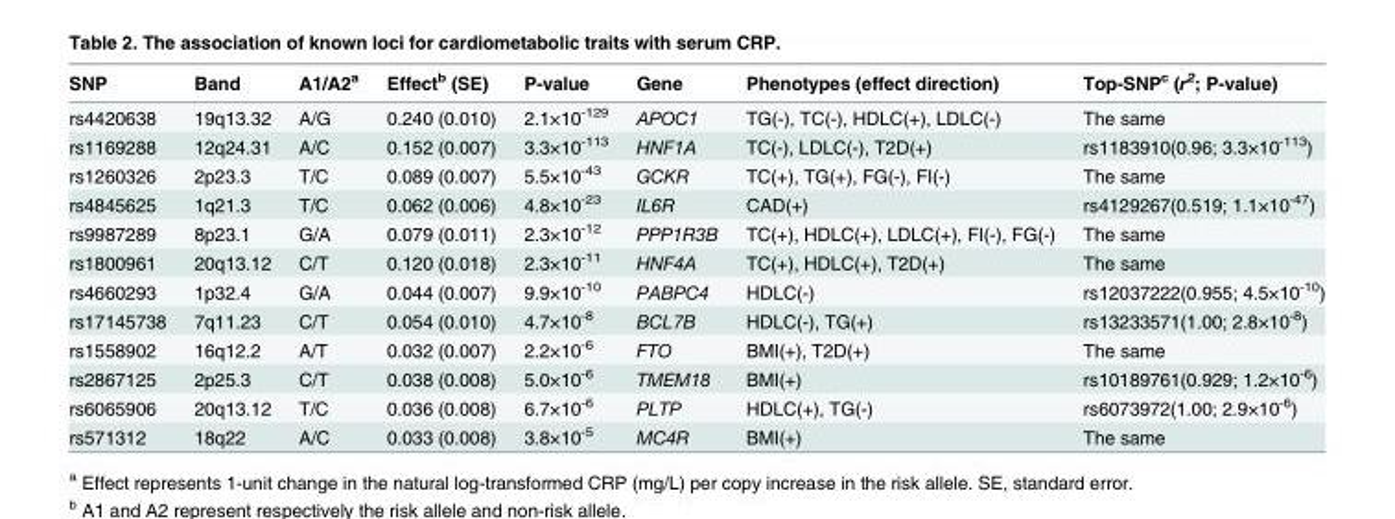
<table><thead><tr><td>SNP</td><td>Band</td><td>A1/A2<sup>a</sup></td><td>Effect<sup>b</sup> (SE)</td><td>P-value</td><td>Gene</td><td>Phenotypes (effect direction)</td><td>Top-SNP<sup>c</sup> (r<sup>2</sup>; P-value)</td></tr></thead><tbody><tr><td>rs4420638</td><td>19q13.32</td><td>A/G</td><td>0.240 (0.010)</td><td>2.1×10<sup>-129</sup></td><td>APOC1</td><td>TG(-), TC(-), HDLC(+), LDLC(-)</td><td>The same</td></tr><tr><td>rs1169288</td><td>12q24.31</td><td>A/C</td><td>0.152 (0.007)</td><td>3.3×10<sup>-113</sup></td><td>HNF1A</td><td>TC(-), LDLC(-), T2D(+)</td><td>rs1183910(0.96; 3.3×10<sup>-113</sup>)</td></tr><tr><td>rs1260326</td><td>2p23.3</td><td>T/C</td><td>0.089 (0.007)</td><td>5.5×10<sup>-43</sup></td><td>GCKR</td><td>TC(+), TG(+), FG(-), FI(-)</td><td>The same</td></tr><tr><td>rs4845625</td><td>1q21.3</td><td>T/C</td><td>0.062 (0.006)</td><td>4.8×10<sup>-23</sup></td><td>IL6R</td><td>CAD(+)</td><td>rs4129267(0.519; 1.1×10<sup>-47</sup>)</td></tr><tr><td>rs9987289</td><td>8p23.1</td><td>G/A</td><td>0.079 (0.011)</td><td>2.3×10<sup>-12</sup></td><td>PPP1R3B</td><td>TC(+), HDLC(+), LDLC(+), FI(-), FG(-)</td><td>The same</td></tr><tr><td>rs1800961</td><td>20q13.12</td><td>C/T</td><td>0.120 (0.018)</td><td>2.3×10<sup>-11</sup></td><td>HNF4A</td><td>TC(+), HDLC(+), T2D(+)</td><td>The same</td></tr><tr><td>rs4660293</td><td>1p32.4</td><td>G/A</td><td>0.044 (0.007)</td><td>9.9×10<sup>-10</sup></td><td>PABPC4</td><td>HDLC(-)</td><td>rs12037222(0.955; 4.5×10<sup>-10</sup>)</td></tr><tr><td>rs17145738</td><td>7q11.23</td><td>C/T</td><td>0.054 (0.010)</td><td>4.7×10<sup>-8</sup></td><td>BCL7B</td><td>HDLC(-), TG(+)</td><td>rs13233571(1.00; 2.8×10<sup>-8</sup>)</td></tr><tr><td>rs1558902</td><td>16q12.2</td><td>A/T</td><td>0.032 (0.007)</td><td>2.2×10<sup>-6</sup></td><td>FTO</td><td>BMI(+), T2D(+)</td><td>The same</td></tr><tr><td>rs2867125</td><td>2p25.3</td><td>C/T</td><td>0.038 (0.008)</td><td>5.0×10<sup>-6</sup></td><td>TMEM18</td><td>BMI(+)</td><td>rs10189761(0.929; 1.2×10<sup>-6</sup>)</td></tr><tr><td>rs6065906</td><td>20q13.12</td><td>T/C</td><td>0.036 (0.008)</td><td>6.7×10<sup>-6</sup></td><td>PLTP</td><td>HDLC(+), TG(-)</td><td>rs6073972(1.00; 2.9×10<sup>-6</sup>)</td></tr><tr><td>rs571312</td><td>18q22</td><td>A/C</td><td>0.033 (0.008)</td><td>3.8×10<sup>-5</sup></td><td>MC4R</td><td>BMI(+)</td><td>The same</td></tr></tbody></table>